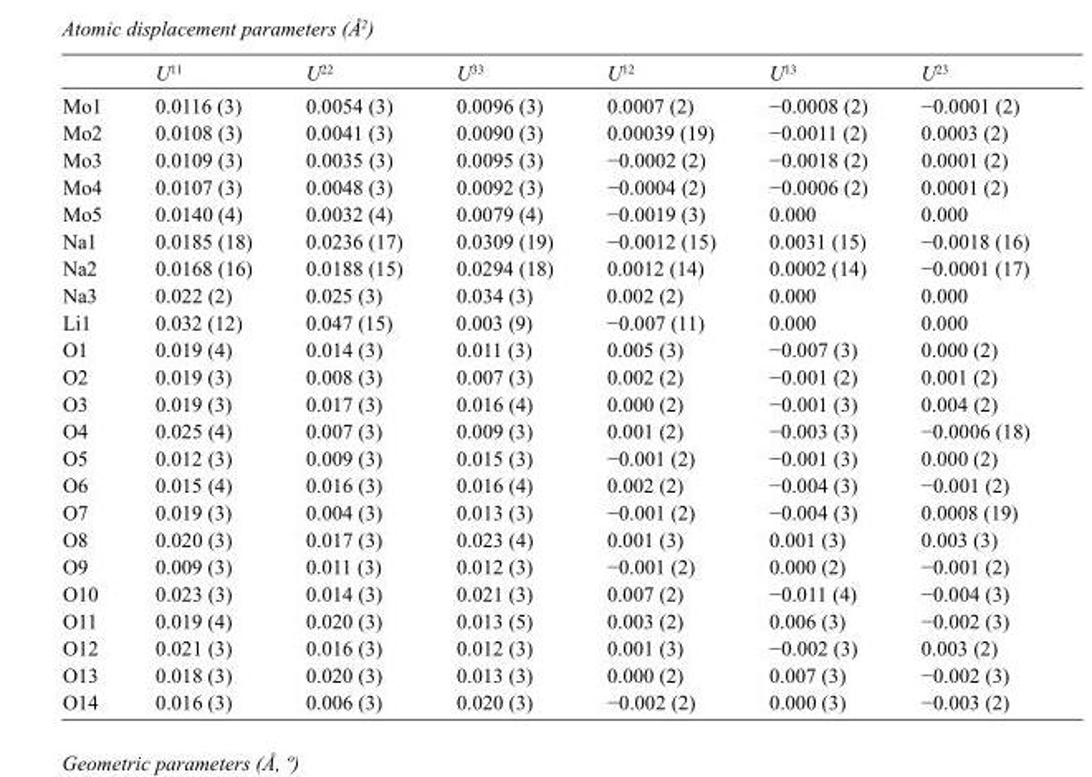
<table><thead><tr><td></td><td>U<sup>11</sup></td><td>U<sup>22</sup></td><td>U<sup>33</sup></td><td>U<sup>12</sup></td><td>U<sup>13</sup></td><td>U<sup>23</sup></td></tr></thead><tbody><tr><td>Mo1</td><td>0.0116 (3)</td><td>0.0054 (3)</td><td>0.0096 (3)</td><td>0.0007 (2)</td><td>−0.0008 (2)</td><td>−0.0001 (2)</td></tr><tr><td>Mo2</td><td>0.0108 (3)</td><td>0.0041 (3)</td><td>0.0090 (3)</td><td>0.00039 (19)</td><td>−0.0011 (2)</td><td>0.0003 (2)</td></tr><tr><td>Mo3</td><td>0.0109 (3)</td><td>0.0035 (3)</td><td>0.0095 (3)</td><td>−0.0002 (2)</td><td>−0.0018 (2)</td><td>0.0001 (2)</td></tr><tr><td>Mo4</td><td>0.0107 (3)</td><td>0.0048 (3)</td><td>0.0092 (3)</td><td>−0.0004 (2)</td><td>−0.0006 (2)</td><td>0.0001 (2)</td></tr><tr><td>Mo5</td><td>0.0140 (4)</td><td>0.0032 (4)</td><td>0.0079 (4)</td><td>−0.0019 (3)</td><td>0.000</td><td>0.000</td></tr><tr><td>Na1</td><td>0.0185 (18)</td><td>0.0236 (17)</td><td>0.0309 (19)</td><td>−0.0012 (15)</td><td>0.0031 (15)</td><td>−0.0018 (16)</td></tr><tr><td>Na2</td><td>0.0168 (16)</td><td>0.0188 (15)</td><td>0.0294 (18)</td><td>0.0012 (14)</td><td>0.0002 (14)</td><td>−0.0001 (17)</td></tr><tr><td>Na3</td><td>0.022 (2)</td><td>0.025 (3)</td><td>0.034 (3)</td><td>0.002 (2)</td><td>0.000</td><td>0.000</td></tr><tr><td>Li1</td><td>0.032 (12)</td><td>0.047 (15)</td><td>0.003 (9)</td><td>−0.007 (11)</td><td>0.000</td><td>0.000</td></tr><tr><td>O1</td><td>0.019 (4)</td><td>0.014 (3)</td><td>0.011 (3)</td><td>0.005 (3)</td><td>−0.007 (3)</td><td>0.000 (2)</td></tr><tr><td>O2</td><td>0.019 (3)</td><td>0.008 (3)</td><td>0.007 (3)</td><td>0.002 (2)</td><td>−0.001 (2)</td><td>0.001 (2)</td></tr><tr><td>O3</td><td>0.019 (3)</td><td>0.017 (3)</td><td>0.016 (4)</td><td>0.000 (2)</td><td>−0.001 (3)</td><td>0.004 (2)</td></tr><tr><td>O4</td><td>0.025 (4)</td><td>0.007 (3)</td><td>0.009 (3)</td><td>0.001 (2)</td><td>−0.003 (3)</td><td>−0.0006 (18)</td></tr><tr><td>O5</td><td>0.012 (3)</td><td>0.009 (3)</td><td>0.015 (3)</td><td>−0.001 (2)</td><td>−0.001 (3)</td><td>0.000 (2)</td></tr><tr><td>O6</td><td>0.015 (4)</td><td>0.016 (3)</td><td>0.016 (4)</td><td>0.002 (2)</td><td>−0.004 (3)</td><td>−0.001 (2)</td></tr><tr><td>O7</td><td>0.019 (3)</td><td>0.004 (3)</td><td>0.013 (3)</td><td>−0.001 (2)</td><td>−0.004 (3)</td><td>0.0008 (19)</td></tr><tr><td>O8</td><td>0.020 (3)</td><td>0.017 (3)</td><td>0.023 (4)</td><td>0.001 (3)</td><td>0.001 (3)</td><td>0.003 (3)</td></tr><tr><td>O9</td><td>0.009 (3)</td><td>0.011 (3)</td><td>0.012 (3)</td><td>−0.001 (2)</td><td>0.000 (2)</td><td>−0.001 (2)</td></tr><tr><td>O10</td><td>0.023 (3)</td><td>0.014 (3)</td><td>0.021 (3)</td><td>0.007 (2)</td><td>−0.011 (4)</td><td>−0.004 (3)</td></tr><tr><td>O11</td><td>0.019 (4)</td><td>0.020 (3)</td><td>0.013 (5)</td><td>0.003 (2)</td><td>0.006 (3)</td><td>−0.002 (3)</td></tr><tr><td>O12</td><td>0.021 (3)</td><td>0.016 (3)</td><td>0.012 (3)</td><td>0.001 (3)</td><td>−0.002 (3)</td><td>0.003 (2)</td></tr><tr><td>O13</td><td>0.018 (3)</td><td>0.020 (3)</td><td>0.013 (3)</td><td>0.000 (2)</td><td>0.007 (3)</td><td>−0.002 (3)</td></tr><tr><td>O14</td><td>0.016 (3)</td><td>0.006 (3)</td><td>0.020 (3)</td><td>−0.002 (2)</td><td>0.000 (3)</td><td>−0.003 (2)</td></tr></tbody></table>